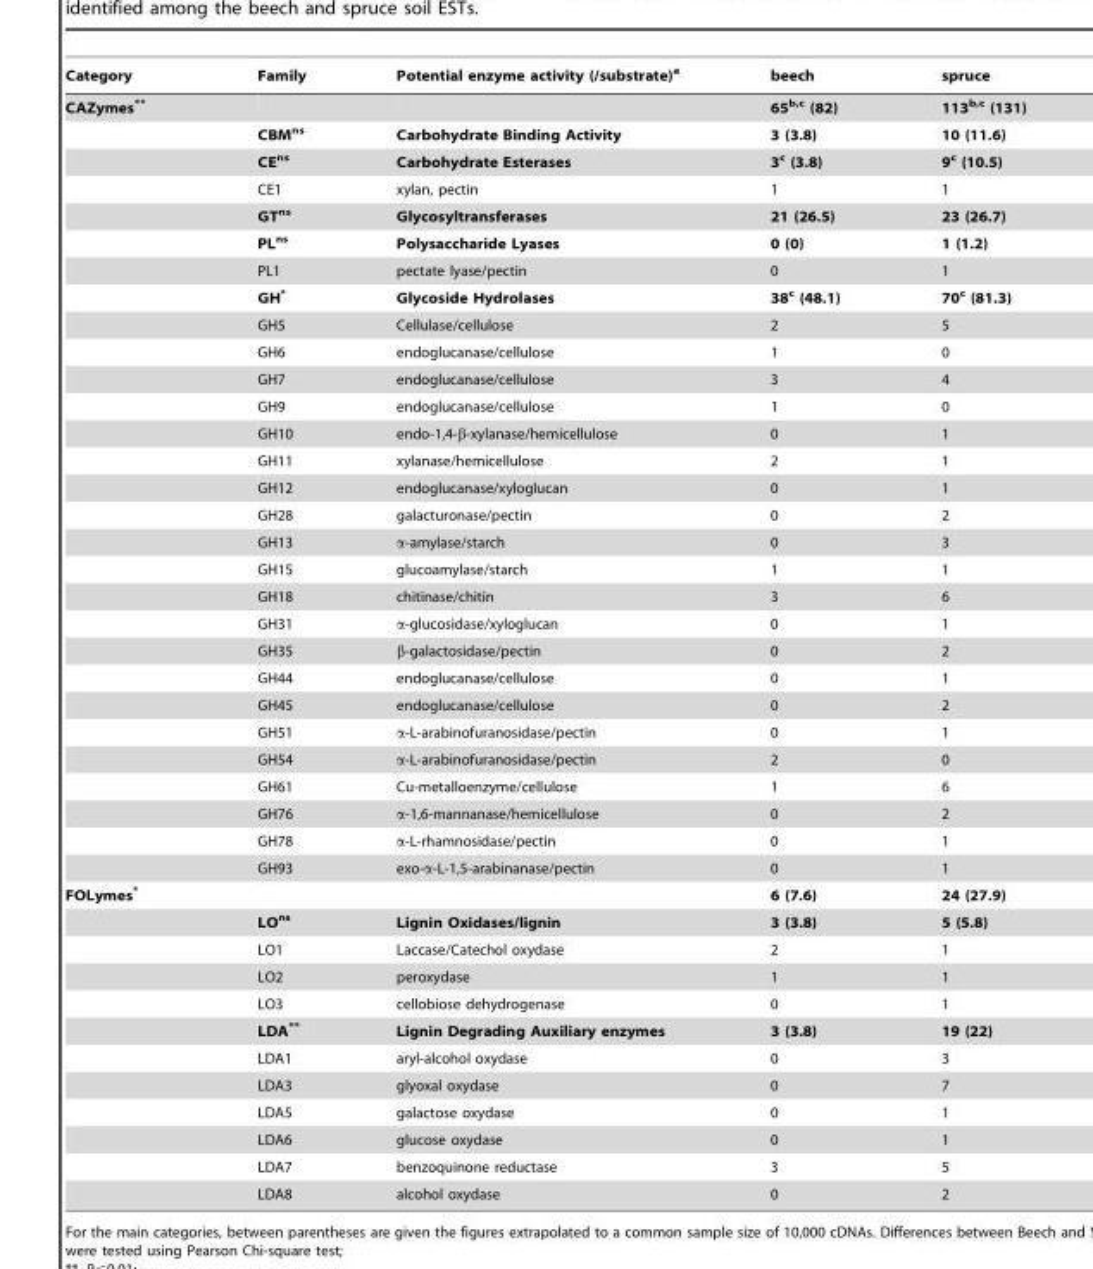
<table><thead><tr><td>Category</td><td>Family</td><td>Potential enzyme activity (/substrate)<sup>a</sup></td><td>beech</td><td>spruce</td></tr></thead><tbody><tr><td rowspan="29">CAZymes**</td><td></td><td></td><td>65b<sup>,</sup>c (82)</td><td>113b<sup>,</sup>c (131)</td></tr><tr><td>CBMns</td><td>Carbohydrate Binding Activity</td><td>3 (3.8)</td><td>10 (11.6)</td></tr><tr><td>CEns</td><td>Carbohydrate Esterases</td><td>3c (3.8)</td><td>9c (10.5)</td></tr><tr><td>CE1</td><td>xylan, pectin</td><td>1</td><td>1</td></tr><tr><td>GTns</td><td>Glycosyltransferases</td><td>21 (26.5)</td><td>23 (26.7)</td></tr><tr><td>PLns</td><td>Polysaccharide Lyases</td><td>0 (0)</td><td>1 (1.2)</td></tr><tr><td>PL1</td><td>pectate lyase/pectin</td><td>0</td><td>1</td></tr><tr><td>GH*</td><td>Glycoside Hydrolases</td><td>38c (48.1)</td><td>70c (81.3)</td></tr><tr><td>GH5</td><td>Cellulase/cellulose</td><td>2</td><td>5</td></tr><tr><td>GH6</td><td>endoglucanase/cellulose</td><td>1</td><td>0</td></tr><tr><td>GH7</td><td>endoglucanase/cellulose</td><td>3</td><td>4</td></tr><tr><td>GH9</td><td>endoglucanase/cellulose</td><td>1</td><td>0</td></tr><tr><td>GH10</td><td>endo-1,4-β-xylanase/hemicellulose</td><td>0</td><td>1</td></tr><tr><td>GH11</td><td>xylanase/hemicellulose</td><td>2</td><td>1</td></tr><tr><td>GH12</td><td>endoglucanase/xyloglucan</td><td>0</td><td>1</td></tr><tr><td>GH28</td><td>galacturonase/pectin</td><td>0</td><td>2</td></tr><tr><td>GH13</td><td>α-amylase/starch</td><td>0</td><td>3</td></tr><tr><td>GH15</td><td>glucoamylase/starch</td><td>1</td><td>1</td></tr><tr><td>GH18</td><td>chitinase/chitin</td><td>3</td><td>6</td></tr><tr><td>GH31</td><td>α-glucosidase/xyloglucan</td><td>0</td><td>1</td></tr><tr><td>GH35</td><td>β-galactosidase/pectin</td><td>0</td><td>2</td></tr><tr><td>GH44</td><td>endoglucanase/cellulose</td><td>0</td><td>1</td></tr><tr><td>GH45</td><td>endoglucanase/cellulose</td><td>0</td><td>2</td></tr><tr><td>GH51</td><td>α-L-arabinofuranosidase/pectin</td><td>0</td><td>1</td></tr><tr><td>GH54</td><td>α-L-arabinofuranosidase/pectin</td><td>2</td><td>0</td></tr><tr><td>GH61</td><td>Cu-metalloenzyme/cellulose</td><td>1</td><td>6</td></tr><tr><td>GH76</td><td>α-1,6-mannanase/hemicellulose</td><td>0</td><td>2</td></tr><tr><td>GH78</td><td>α-L-rhamnosidase/pectin</td><td>0</td><td>1</td></tr><tr><td>GH93</td><td>exo-α-L-1,5-arabinanase/pectin</td><td>0</td><td>1</td></tr><tr><td rowspan="12">FOLymes*</td><td></td><td></td><td>6 (7.6)</td><td>24 (27.9)</td></tr><tr><td>LOns</td><td>Lignin Oxidases/lignin</td><td>3 (3.8)</td><td>5 (5.8)</td></tr><tr><td>LO1</td><td>Laccase/Catechol oxydase</td><td>2</td><td>1</td></tr><tr><td>LO2</td><td>peroxydase</td><td>1</td><td>1</td></tr><tr><td>LO3</td><td>cellobiose dehydrogenase</td><td>0</td><td>1</td></tr><tr><td>LDA**</td><td>Lignin Degrading Auxiliary enzymes</td><td>3 (3.8)</td><td>19 (22)</td></tr><tr><td>LDA1</td><td>aryl-alcohol oxydase</td><td>0</td><td>3</td></tr><tr><td>LDA3</td><td>glyoxal oxydase</td><td>0</td><td>7</td></tr><tr><td>LDA5</td><td>galactose oxydase</td><td>0</td><td>1</td></tr><tr><td>LDA6</td><td>glucose oxydase</td><td>0</td><td>1</td></tr><tr><td>LDA7</td><td>benzoquinone reductase</td><td>3</td><td>5</td></tr><tr><td>LDA8</td><td>alcohol oxydase</td><td>0</td><td>2</td></tr></tbody></table>